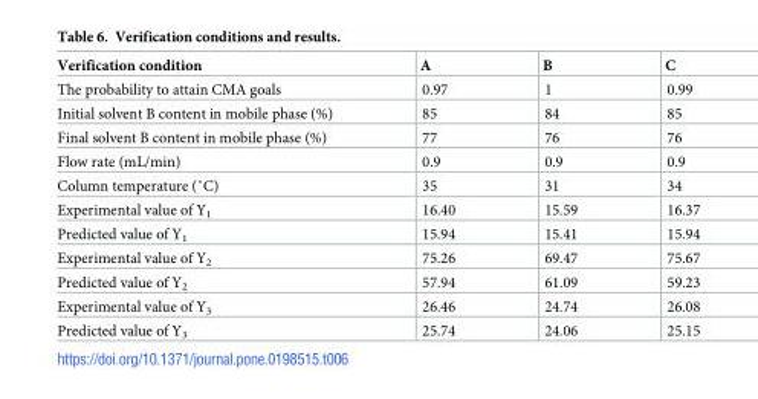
<table><thead><tr><td>Verification condition</td><td>A</td><td>B</td><td>C</td></tr></thead><tbody><tr><td>The probability to attain CMA goals</td><td>0.97</td><td>1</td><td>0.99</td></tr><tr><td>Initial solvent B content in mobile phase (%)</td><td>85</td><td>84</td><td>85</td></tr><tr><td>Final solvent B content in mobile phase (%)</td><td>77</td><td>76</td><td>76</td></tr><tr><td>Flow rate (mL/min)</td><td>0.9</td><td>0.9</td><td>0.9</td></tr><tr><td>Column temperature (˚C)</td><td>35</td><td>31</td><td>34</td></tr><tr><td>Experimental value of Y<sub>1</sub></td><td>16.40</td><td>15.59</td><td>16.37</td></tr><tr><td>Predicted value of Y<sub>1</sub></td><td>15.94</td><td>15.41</td><td>15.94</td></tr><tr><td>Experimental value of Y<sub>2</sub></td><td>75.26</td><td>69.47</td><td>75.67</td></tr><tr><td>Predicted value of Y<sub>2</sub></td><td>57.94</td><td>61.09</td><td>59.23</td></tr><tr><td>Experimental value of Y<sub>3</sub></td><td>26.46</td><td>24.74</td><td>26.08</td></tr><tr><td>Predicted value of Y<sub>3</sub></td><td>25.74</td><td>24.06</td><td>25.15</td></tr></tbody></table>